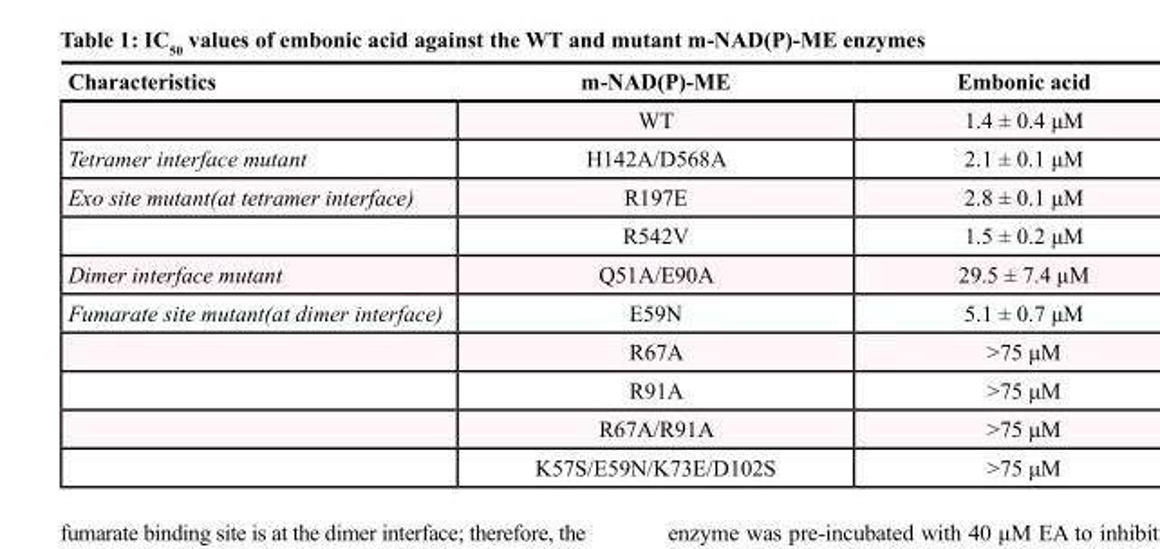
<table><thead><tr><td>Characteristics</td><td>m-NAD(P)-ME</td><td>Embonic acid</td></tr></thead><tbody><tr><td></td><td>WT</td><td>1.4 ± 0.4 μM</td></tr><tr><td>Tetramer interface mutant</td><td>H142A/D568A</td><td>2.1 ± 0.1 μM</td></tr><tr><td rowspan="2">Exo site mutant(at tetramer interface)</td><td>R197E</td><td>2.8 ± 0.1 μM</td></tr><tr><td>R542V</td><td>1.5 ± 0.2 μM</td></tr><tr><td>Dimer interface mutant</td><td>Q51A/E90A</td><td>29.5 ± 7.4 μM</td></tr><tr><td rowspan="5">Fumarate site mutant(at dimer interface)</td><td>E59N</td><td>5.1 ± 0.7 μM</td></tr><tr><td>R67A</td><td>&gt;75 μM</td></tr><tr><td>R91A</td><td>&gt;75 μM</td></tr><tr><td>R67A/R91A</td><td>&gt;75 μM</td></tr><tr><td>K57S/E59N/K73E/D102S</td><td>&gt;75 μM</td></tr></tbody></table>